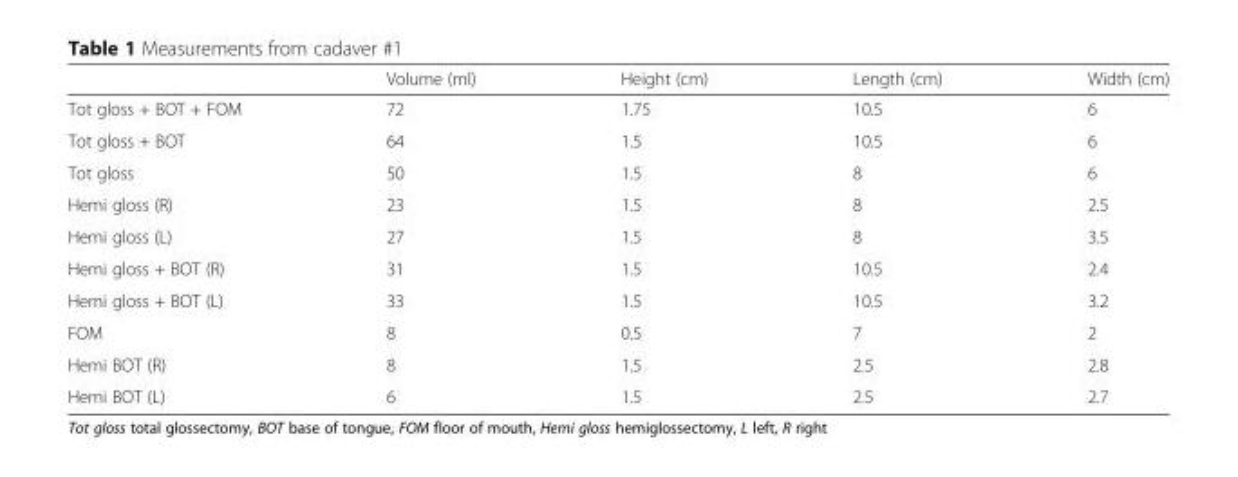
<table><thead><tr><td></td><td>Volume (ml)</td><td>Height (cm)</td><td>Length (cm)</td><td>Width (cm)</td></tr></thead><tbody><tr><td>Tot gloss + BOT + FOM</td><td>72</td><td>1.75</td><td>10.5</td><td>6</td></tr><tr><td>Tot gloss + BOT</td><td>64</td><td>1.5</td><td>10.5</td><td>6</td></tr><tr><td>Tot gloss</td><td>50</td><td>1.5</td><td>8</td><td>6</td></tr><tr><td>Hemi gloss (R)</td><td>23</td><td>1.5</td><td>8</td><td>2.5</td></tr><tr><td>Hemi gloss (L)</td><td>27</td><td>1.5</td><td>8</td><td>3.5</td></tr><tr><td>Hemi gloss + BOT (R)</td><td>31</td><td>1.5</td><td>10.5</td><td>2.4</td></tr><tr><td>Hemi gloss + BOT (L)</td><td>33</td><td>1.5</td><td>10.5</td><td>3.2</td></tr><tr><td>FOM</td><td>8</td><td>0.5</td><td>7</td><td>2</td></tr><tr><td>Hemi BOT (R)</td><td>8</td><td>1.5</td><td>2.5</td><td>2.8</td></tr><tr><td>Hemi BOT (L)</td><td>6</td><td>1.5</td><td>2.5</td><td>2.7</td></tr></tbody></table>